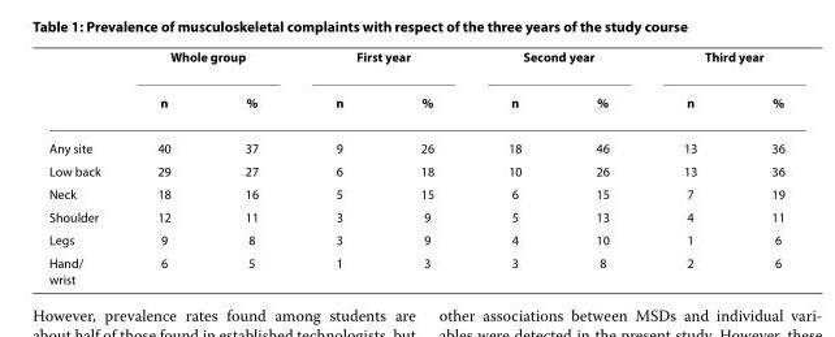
<table><thead><tr><td rowspan="2"></td><td colspan="2">Whole group</td><td colspan="2">First year</td><td colspan="2">Second year</td><td colspan="2">Third year</td></tr><tr><td>n</td><td>%</td><td>n</td><td>%</td><td>n</td><td>%</td><td>n</td><td>%</td></tr></thead><tbody><tr><td>Any site</td><td>40</td><td>37</td><td>9</td><td>26</td><td>18</td><td>46</td><td>13</td><td>36</td></tr><tr><td>Low back</td><td>29</td><td>27</td><td>6</td><td>18</td><td>10</td><td>26</td><td>13</td><td>36</td></tr><tr><td>Neck</td><td>18</td><td>16</td><td>5</td><td>15</td><td>6</td><td>15</td><td>7</td><td>19</td></tr><tr><td>Shoulder</td><td>12</td><td>11</td><td>3</td><td>9</td><td>5</td><td>13</td><td>4</td><td>11</td></tr><tr><td>Legs</td><td>9</td><td>8</td><td>3</td><td>9</td><td>4</td><td>10</td><td>1</td><td>6</td></tr><tr><td>Hand/ wrist</td><td>6</td><td>5</td><td>1</td><td>3</td><td>3</td><td>8</td><td>2</td><td>6</td></tr></tbody></table>